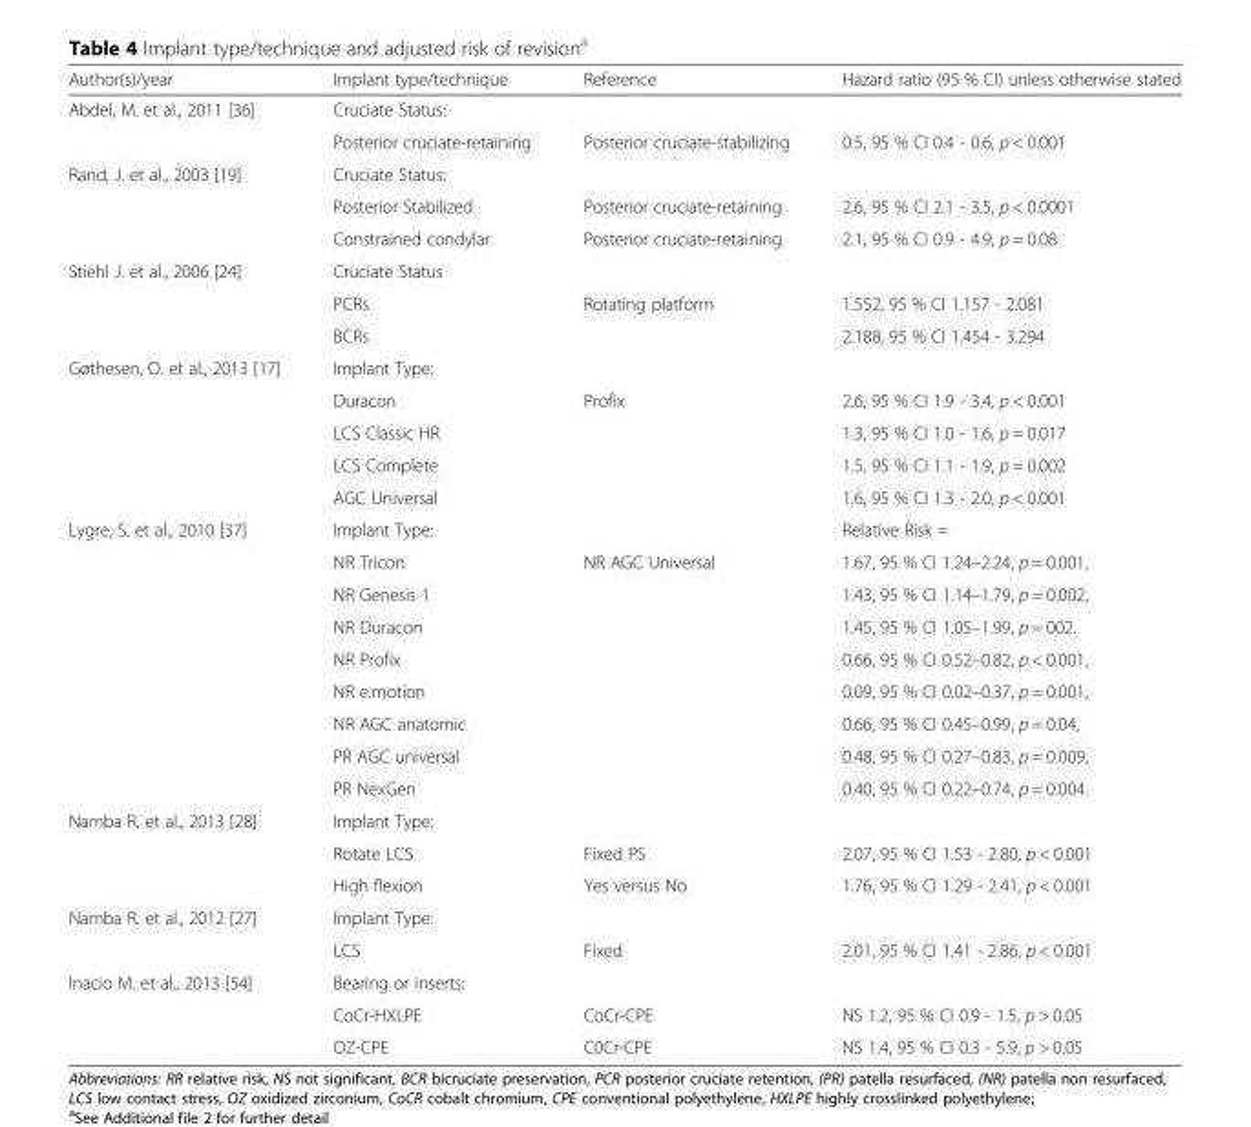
<table><thead><tr><td>Author(s)/year</td><td>Implant type/technique</td><td>Reference</td><td>Hazard ratio (95 % CI) unless otherwise stated</td></tr></thead><tbody><tr><td rowspan="2">Abdel, M. et al., 2011 [36]</td><td>Cruciate Status:</td><td></td><td></td></tr><tr><td>Posterior cruciate-retaining</td><td>Posterior cruciate-stabilizing</td><td>0.5, 95 % CI 0.4 - 0.6, p &lt; 0.001</td></tr><tr><td rowspan="3">Rand, J. et al., 2003 [19]</td><td>Cruciate Status:</td><td></td><td></td></tr><tr><td>Posterior Stabilized</td><td>Posterior cruciate-retaining</td><td>2.6, 95 % CI 2.1 - 3.5, p &lt; 0.0001</td></tr><tr><td>Constrained condylar</td><td>Posterior cruciate-retaining</td><td>2.1, 95 % CI 0.9 - 4.9, p = 0.08</td></tr><tr><td rowspan="3">Stiehl J. et al., 2006 [24]</td><td>Cruciate Status</td><td></td><td></td></tr><tr><td>PCRs</td><td>Rotating platform</td><td>1.552, 95 % CI 1.157 - 2.081</td></tr><tr><td>BCRs</td><td></td><td>2.188, 95 % CI 1.454 - 3.294</td></tr><tr><td rowspan="5">Gøthesen, O. et al., 2013 [17]</td><td>Implant Type:</td><td></td><td></td></tr><tr><td>Duracon</td><td>Profix</td><td>2.6, 95 % CI 1.9 - 3.4, p &lt; 0.001</td></tr><tr><td>LCS Classic HR</td><td></td><td>1.3, 95 % CI 1.0 - 1.6, p = 0.017</td></tr><tr><td>LCS Complete</td><td></td><td>1.5, 95 % CI 1.1 - 1.9, p = 0.002</td></tr><tr><td>AGC Universal</td><td></td><td>1.6, 95 % CI 1.3 - 2.0, p &lt; 0.001</td></tr><tr><td rowspan="9">Lygre, S. et al., 2010 [37]</td><td>Implant Type:</td><td></td><td>Relative Risk =</td></tr><tr><td>NR Tricon</td><td>NR AGC Universal</td><td>1.67, 95 % CI 1.24–2.24, p = 0.001,</td></tr><tr><td>NR Genesis 1</td><td></td><td>1.43, 95 % CI 1.14–1.79, p = 0.002,</td></tr><tr><td>NR Duracon</td><td></td><td>1.45, 95 % CI 1.05–1.99, p = 002.</td></tr><tr><td>NR Profix</td><td></td><td>0.66, 95 % CI 0.52–0.82, p &lt; 0.001,</td></tr><tr><td>NR e.motion</td><td></td><td>0.09, 95 % CI 0.02–0.37, p = 0.001,</td></tr><tr><td>NR AGC anatomic</td><td></td><td>0.66, 95 % CI 0.45–0.99, p = 0.04,</td></tr><tr><td>PR AGC universal</td><td></td><td>0.48, 95 % CI 0.27–0.83, p = 0.009,</td></tr><tr><td>PR NexGen</td><td></td><td>0.40, 95 % CI 0.22–0.74, p = 0.004.</td></tr><tr><td rowspan="3">Namba R. et al., 2013 [28]</td><td>Implant Type:</td><td></td><td></td></tr><tr><td>Rotate LCS</td><td>Fixed PS</td><td>2.07, 95 % CI 1.53 - 2.80, p &lt; 0.001</td></tr><tr><td>High flexion</td><td>Yes versus No</td><td>1.76, 95 % CI 1.29 - 2.41, p &lt; 0.001</td></tr><tr><td rowspan="2">Namba R. et al., 2012 [27]</td><td>Implant Type:</td><td></td><td></td></tr><tr><td>LCS</td><td>Fixed</td><td>2.01, 95 % CI 1.41 - 2.86, p &lt; 0.001</td></tr><tr><td rowspan="3">Inacio M. et al., 2013 [54]</td><td>Bearing or inserts:</td><td></td><td></td></tr><tr><td>CoCr-HXLPE</td><td>CoCr-CPE</td><td>NS 1.2, 95 % CI 0.9 - 1.5, p &gt; 0.05</td></tr><tr><td>OZ-CPE</td><td>C0Cr-CPE</td><td>NS 1.4, 95 % CI 0.3 - 5.9, p &gt; 0.05</td></tr></tbody></table>